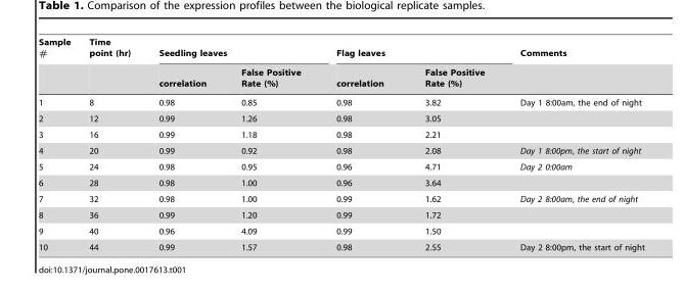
<table><thead><tr><td rowspan="2">Sample #</td><td rowspan="2">Time point (hr)</td><td colspan="2">Seedling leaves</td><td colspan="2">Flag leaves</td><td rowspan="2">Comments</td></tr><tr><td>correlation</td><td>False Positive Rate (%)</td><td>correlation</td><td>False Positive Rate (%)</td></tr></thead><tbody><tr><td>1</td><td>8</td><td>0.98</td><td>0.85</td><td>0.98</td><td>3.82</td><td>Day 1 8:00am, the end of night</td></tr><tr><td>2</td><td>12</td><td>0.99</td><td>1.26</td><td>0.98</td><td>3.05</td><td></td></tr><tr><td>3</td><td>16</td><td>0.99</td><td>1.18</td><td>0.98</td><td>2.21</td><td></td></tr><tr><td>4</td><td>20</td><td>0.99</td><td>0.92</td><td>0.98</td><td>2.08</td><td>Day 1 8:00pm, the start of night</td></tr><tr><td>5</td><td>24</td><td>0.98</td><td>0.95</td><td>0.96</td><td>4.71</td><td>Day 2 0:00am</td></tr><tr><td>6</td><td>28</td><td>0.98</td><td>1.00</td><td>0.96</td><td>3.64</td><td></td></tr><tr><td>7</td><td>32</td><td>0.98</td><td>1.00</td><td>0.99</td><td>1.62</td><td>Day 2 8:00am, the end of night</td></tr><tr><td>8</td><td>36</td><td>0.99</td><td>1.20</td><td>0.99</td><td>1.72</td><td></td></tr><tr><td>9</td><td>40</td><td>0.96</td><td>4.09</td><td>0.99</td><td>1.50</td><td></td></tr><tr><td>10</td><td>44</td><td>0.99</td><td>1.57</td><td>0.98</td><td>2.55</td><td>Day 2 8:00pm, the start of night</td></tr></tbody></table>